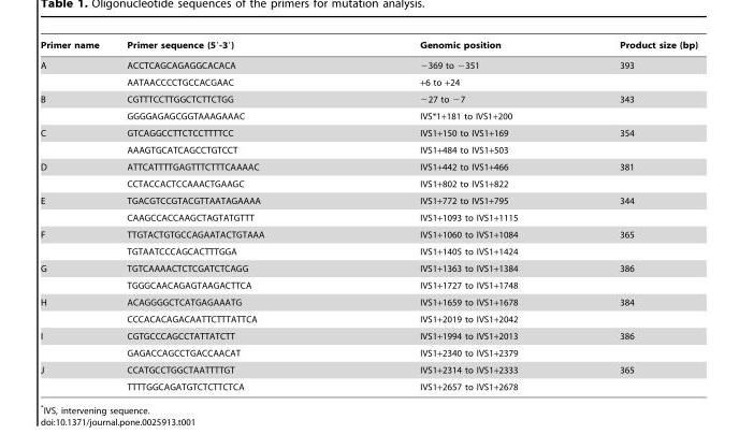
<table><thead><tr><td>Primer name</td><td>Primer sequence (5′-3′)</td><td>Genomic position</td><td>Product size (bp)</td></tr></thead><tbody><tr><td rowspan="2">A</td><td>ACCTCAGCAGAGGCACACA</td><td>−369 to −351</td><td>393</td></tr><tr><td>AATAACCCCTGCCACGAAC</td><td>+6 to +24</td><td></td></tr><tr><td rowspan="2">B</td><td>CGTTTCCTTGGCTCTTCTGG</td><td>−27 to −7</td><td>343</td></tr><tr><td>GGGGAGAGCGGTAAAGAAAC</td><td>IVS*1+181 to IVS1+200</td><td></td></tr><tr><td rowspan="2">C</td><td>GTCAGGCCTTCTCCTTTTCC</td><td>IVS1+150 to IVS1+169</td><td>354</td></tr><tr><td>AAAGTGCATCAGCCTGTCCT</td><td>IVS1+484 to IVS1+503</td><td></td></tr><tr><td rowspan="2">D</td><td>ATTCATTTTGAGTTTCTTTCAAAAC</td><td>IVS1+442 to IVS1+466</td><td>381</td></tr><tr><td>CCTACCACTCCAAACTGAAGC</td><td>IVS1+802 to IVS1+822</td><td></td></tr><tr><td rowspan="2">E</td><td>TGACGTCCGTACGTTAATAGAAAA</td><td>IVS1+772 to IVS1+795</td><td>344</td></tr><tr><td>CAAGCCACCAAGCTAGTATGTTT</td><td>IVS1+1093 to IVS1+1115</td><td></td></tr><tr><td rowspan="2">F</td><td>TTGTACTGTGCCAGAATACTGTAAA</td><td>IVS1+1060 to IVS1+1084</td><td>365</td></tr><tr><td>TGTAATCCCAGCACTTTGGA</td><td>IVS1+1405 to IVS1+1424</td><td></td></tr><tr><td rowspan="2">G</td><td>TGTCAAAACTCTCGATCTCAGG</td><td>IVS1+1363 to IVS1+1384</td><td>386</td></tr><tr><td>TGGGCAACAGAGTAAGACTTCA</td><td>IVS1+1727 to IVS1+1748</td><td></td></tr><tr><td rowspan="2">H</td><td>ACAGGGGCTCATGAGAAATG</td><td>IVS1+1659 to IVS1+1678</td><td>384</td></tr><tr><td>CCCACACAGACAATTCTTTATTCA</td><td>IVS1+2019 to IVS1+2042</td><td></td></tr><tr><td rowspan="2">I</td><td>CGTGCCCAGCCTATTATCTT</td><td>IVS1+1994 to IVS1+2013</td><td>386</td></tr><tr><td>GAGACCAGCCTGACCAACAT</td><td>IVS1+2340 to IVS1+2379</td><td></td></tr><tr><td rowspan="2">J</td><td>CCATGCCTGGCTAATTTTGT</td><td>IVS1+2314 to IVS1+2333</td><td>365</td></tr><tr><td>TTTTGGCAGATGTCTCTTCTCA</td><td>IVS1+2657 to IVS1+2678</td><td></td></tr></tbody></table>